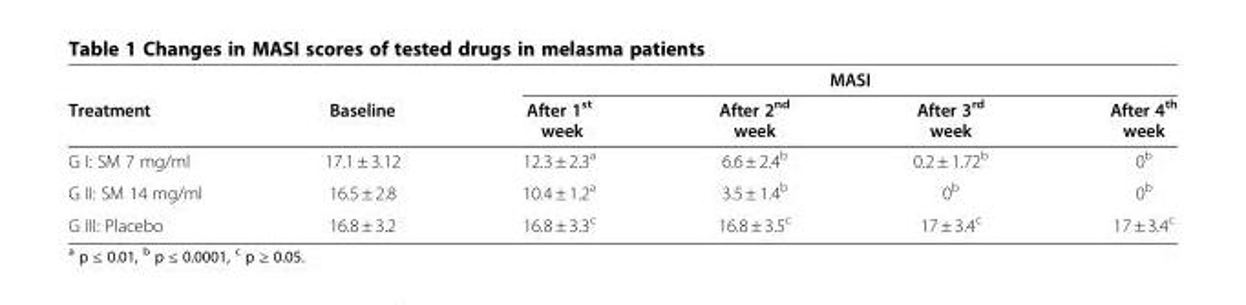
<table><thead><tr><td rowspan="2">Treatment</td><td rowspan="2">Baseline</td><td colspan="4">MASI</td></tr><tr><td>After 1<sup>st</sup> week</td><td>After 2<sup>nd</sup> week</td><td>After 3<sup>rd</sup> week</td><td>After 4<sup>th</sup> week</td></tr></thead><tbody><tr><td>G I: SM 7 mg/ml</td><td>17.1 ± 3.12</td><td>12.3 ± 2.3<sup>a</sup></td><td>6.6 ± 2.4<sup>b</sup></td><td>0.2 ± 1.72<sup>b</sup></td><td>0<sup>b</sup></td></tr><tr><td>G II: SM 14 mg/ml</td><td>16.5 ± 2.8</td><td>10.4 ± 1.2<sup>a</sup></td><td>3.5 ± 1.4<sup>b</sup></td><td>0<sup>b</sup></td><td>0<sup>b</sup></td></tr><tr><td>G III: Placebo</td><td>16.8 ± 3.2</td><td>16.8 ± 3.3<sup>c</sup></td><td>16.8 ± 3.5<sup>c</sup></td><td>17 ± 3.4<sup>c</sup></td><td>17 ± 3.4<sup>c</sup></td></tr></tbody></table>